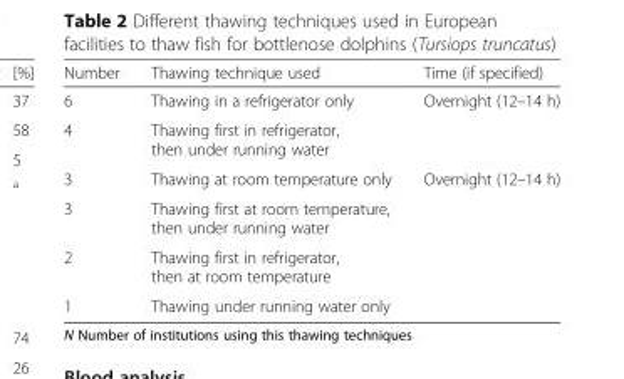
<table><thead><tr><td>Number</td><td>Thawing technique used</td><td>Time (if specified)</td></tr></thead><tbody><tr><td>6</td><td>Thawing in a refrigerator only</td><td>Overnight (12–14 h)</td></tr><tr><td>4</td><td>Thawing first in refrigerator, then under running water</td><td></td></tr><tr><td>3</td><td>Thawing at room temperature only</td><td>Overnight (12–14 h)</td></tr><tr><td>3</td><td>Thawing first at room temperature, then under running water</td><td></td></tr><tr><td>2</td><td>Thawing first in refrigerator, then at room temperature</td><td></td></tr><tr><td>1</td><td>Thawing under running water only</td><td></td></tr></tbody></table>